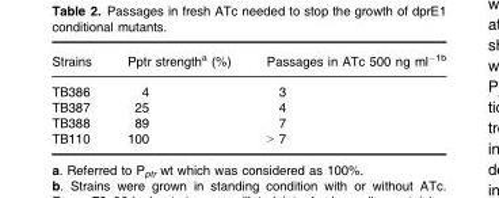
<table><thead><tr><td>Strains</td><td>Pptr strength<sup>a</sup> (%)</td><td>Passages in ATc 500 ng ml<sup>−1</sup>b</td></tr></thead><tbody><tr><td>TB386</td><td>4</td><td>3</td></tr><tr><td>TB387</td><td>25</td><td>4</td></tr><tr><td>TB388</td><td>89</td><td>7</td></tr><tr><td>TB110</td><td>100</td><td>&gt; 7</td></tr></tbody></table>